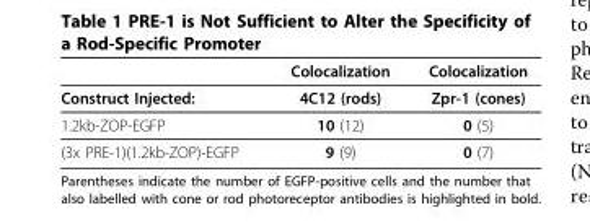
<table><thead><tr><td></td><td>Colocalization</td><td>Colocalization</td></tr></thead><tbody><tr><td>Construct Injected:</td><td>4C12 (rods)</td><td>Zpr-1 (cones)</td></tr><tr><td>1.2kb-ZOP-EGFP</td><td>10 (12)</td><td>0 (5)</td></tr><tr><td>(3x PRE-1)(1.2kb-ZOP)-EGFP</td><td>9 (9)</td><td>0 (7)</td></tr></tbody></table>